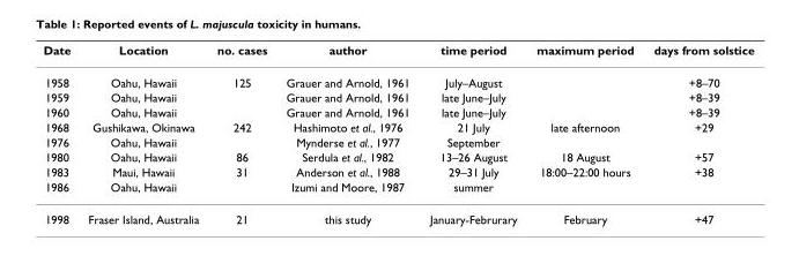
<table><thead><tr><td>Date</td><td>Location</td><td>no. cases</td><td>author</td><td>time period</td><td>maximum period</td><td>days from solstice</td></tr></thead><tbody><tr><td>1958</td><td>Oahu, Hawaii</td><td>125</td><td>Grauer and Arnold, 1961</td><td>July–August</td><td></td><td>+8–70</td></tr><tr><td>1959</td><td>Oahu, Hawaii</td><td></td><td>Grauer and Arnold, 1961</td><td>late June–July</td><td></td><td>+8–39</td></tr><tr><td>1960</td><td>Oahu, Hawaii</td><td></td><td>Grauer and Arnold, 1961</td><td>late June–July</td><td></td><td>+8–39</td></tr><tr><td>1968</td><td>Gushikawa, Okinawa</td><td>242</td><td>Hashimoto et al., 1976</td><td>21 July</td><td>late afternoon</td><td>+29</td></tr><tr><td>1976</td><td>Oahu, Hawaii</td><td></td><td>Mynderse et al., 1977</td><td>September</td><td></td><td></td></tr><tr><td>1980</td><td>Oahu, Hawaii</td><td>86</td><td>Serdula et al., 1982</td><td>13–26 August</td><td>18 August</td><td>+57</td></tr><tr><td>1983</td><td>Maui, Hawaii</td><td>31</td><td>Anderson et al., 1988</td><td>29–31 July</td><td>18:00–22:00 hours</td><td>+38</td></tr><tr><td>1986</td><td>Oahu, Hawaii</td><td></td><td>Izumi and Moore, 1987</td><td>summer</td><td></td><td></td></tr><tr><td>1998</td><td>Fraser Island, Australia</td><td>21</td><td>this study</td><td>January-Februrary</td><td>February</td><td>+47</td></tr></tbody></table>